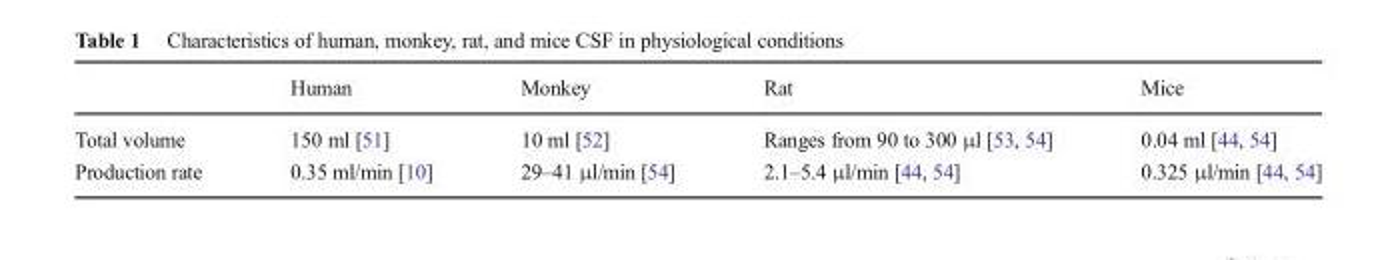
<table><thead><tr><td></td><td>Human</td><td>Monkey</td><td>Rat</td><td>Mice</td></tr></thead><tbody><tr><td>Total volume</td><td>150 ml [51]</td><td>10 ml [52]</td><td>Ranges from 90 to 300 μl [53, 54]</td><td>0.04 ml [44, 54]</td></tr><tr><td>Production rate</td><td>0.35 ml/min [10]</td><td>29–41 μl/min [54]</td><td>2.1–5.4 μl/min [44, 54]</td><td>0.325 μl/min [44, 54]</td></tr></tbody></table>